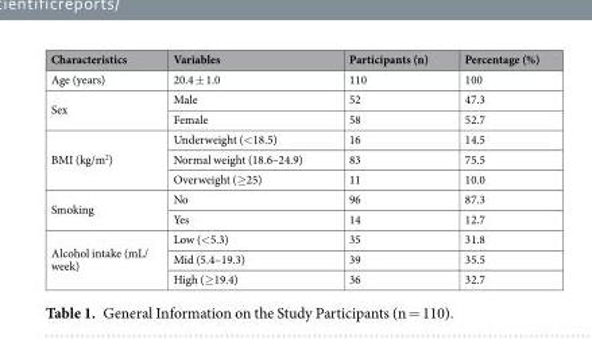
<table><thead><tr><td>Characteristics</td><td>Variables</td><td>Participants (n)</td><td>Percentage (%)</td></tr></thead><tbody><tr><td>Age (years)</td><td>20.4 ± 1.0</td><td>110</td><td>100</td></tr><tr><td rowspan="2">Sex</td><td>Male</td><td>52</td><td>47.3</td></tr><tr><td>Female</td><td>58</td><td>52.7</td></tr><tr><td rowspan="3">BMI (kg/m<sup>2</sup>)</td><td>Underweight (&lt;18.5)</td><td>16</td><td>14.5</td></tr><tr><td>Normal weight (18.6–24.9)</td><td>83</td><td>75.5</td></tr><tr><td>Overweight (≥25)</td><td>11</td><td>10.0</td></tr><tr><td rowspan="2">Smoking</td><td>No</td><td>96</td><td>87.3</td></tr><tr><td>Yes</td><td>14</td><td>12.7</td></tr><tr><td rowspan="3">Alcohol intake (mL/ week)</td><td>Low (&lt;5.3)</td><td>35</td><td>31.8</td></tr><tr><td>Mid (5.4–19.3)</td><td>39</td><td>35.5</td></tr><tr><td>High (≥19.4)</td><td>36</td><td>32.7</td></tr></tbody></table>